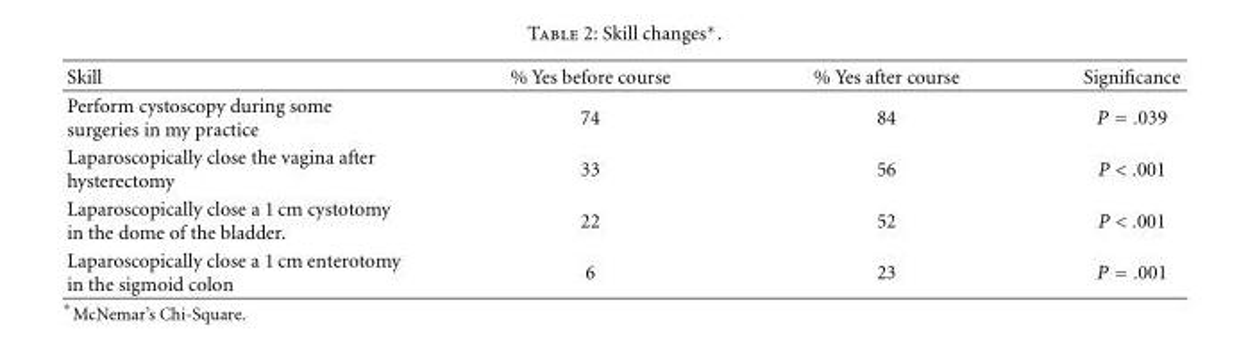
<table><thead><tr><td>Skill</td><td>% Yes before course</td><td>% Yes after course</td><td>Significance</td></tr></thead><tbody><tr><td>Perform cystoscopy during some surgeries in my practice</td><td>74</td><td>84</td><td>P = .039</td></tr><tr><td>Laparoscopically close the vagina after hysterectomy</td><td>33</td><td>56</td><td>P &lt; .001</td></tr><tr><td>Laparoscopically close a 1 cm cystotomy in the dome of the bladder.</td><td>22</td><td>52</td><td>P &lt; .001</td></tr><tr><td>Laparoscopically close a 1 cm enterotomy in the sigmoid colon</td><td>6</td><td>23</td><td>P = .001</td></tr></tbody></table>